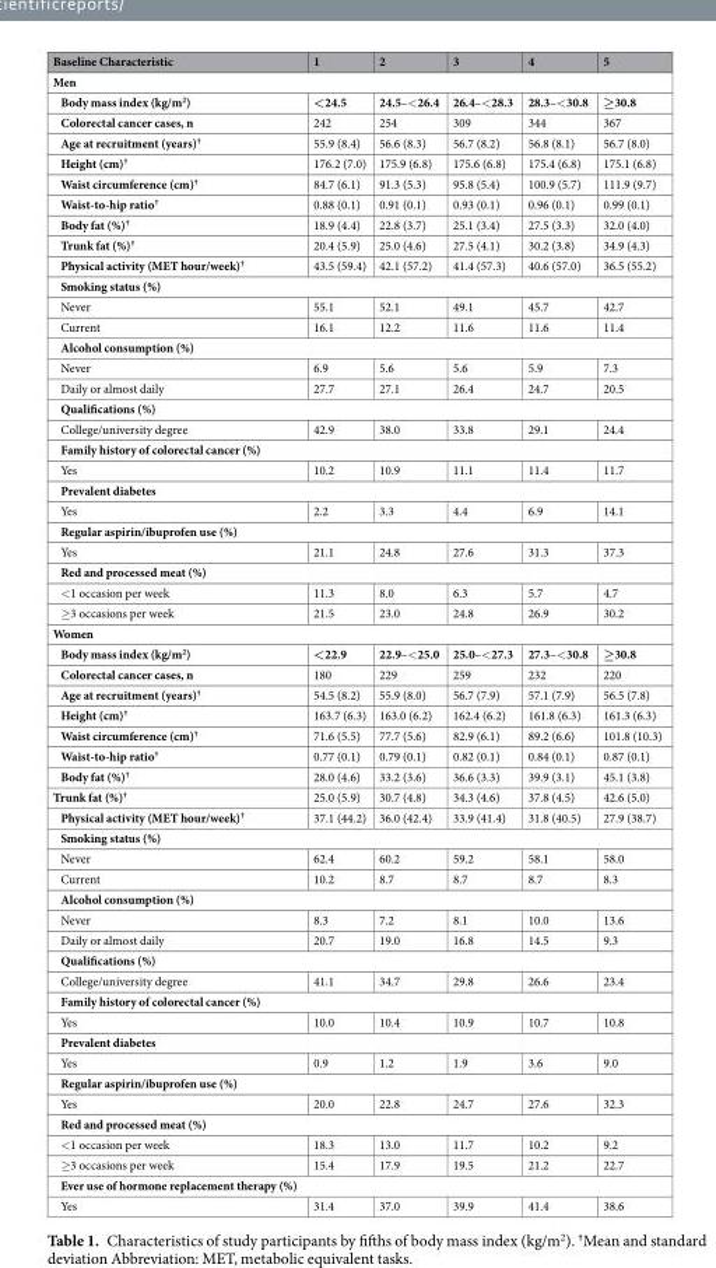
<table><thead><tr><td>Baseline Characteristic</td><td>1</td><td>2</td><td>3</td><td>4</td><td>5</td></tr></thead><tbody><tr><td colspan="6">Men</td></tr><tr><td>Body mass index (kg/m<sup>2</sup>)</td><td>&lt;24.5</td><td>24.5–&lt;26.4</td><td>26.4–&lt;28.3</td><td>28.3–&lt;30.8</td><td>≥30.8</td></tr><tr><td>Colorectal cancer cases, n</td><td>242</td><td>254</td><td>309</td><td>344</td><td>367</td></tr><tr><td>Age at recruitment (years)<sup>†</sup></td><td>55.9 (8.4)</td><td>56.6 (8.3)</td><td>56.7 (8.2)</td><td>56.8 (8.1)</td><td>56.7 (8.0)</td></tr><tr><td>Height (cm)<sup>†</sup></td><td>176.2 (7.0)</td><td>175.9 (6.8)</td><td>175.6 (6.8)</td><td>175.4 (6.8)</td><td>175.1 (6.8)</td></tr><tr><td>Waist circumference (cm)<sup>†</sup></td><td>84.7 (6.1)</td><td>91.3 (5.3)</td><td>95.8 (5.4)</td><td>100.9 (5.7)</td><td>111.9 (9.7)</td></tr><tr><td>Waist-to-hip ratio<sup>†</sup></td><td>0.88 (0.1)</td><td>0.91 (0.1)</td><td>0.93 (0.1)</td><td>0.96 (0.1)</td><td>0.99 (0.1)</td></tr><tr><td>Body fat (%)<sup>†</sup></td><td>18.9 (4.4)</td><td>22.8 (3.7)</td><td>25.1 (3.4)</td><td>27.5 (3.3)</td><td>32.0 (4.0)</td></tr><tr><td>Trunk fat (%)<sup>†</sup></td><td>20.4 (5.9)</td><td>25.0 (4.6)</td><td>27.5 (4.1)</td><td>30.2 (3.8)</td><td>34.9 (4.3)</td></tr><tr><td>Physical activity (MET hour/week)<sup>†</sup></td><td>43.5 (59.4)</td><td>42.1 (57.2)</td><td>41.4 (57.3)</td><td>40.6 (57.0)</td><td>36.5 (55.2)</td></tr><tr><td colspan="6">Smoking status (%)</td></tr><tr><td>Never</td><td>55.1</td><td>52.1</td><td>49.1</td><td>45.7</td><td>42.7</td></tr><tr><td>Current</td><td>16.1</td><td>12.2</td><td>11.6</td><td>11.6</td><td>11.4</td></tr><tr><td colspan="6">Alcohol consumption (%)</td></tr><tr><td>Never</td><td>6.9</td><td>5.6</td><td>5.6</td><td>5.9</td><td>7.3</td></tr><tr><td>Daily or almost daily</td><td>27.7</td><td>27.1</td><td>26.4</td><td>24.7</td><td>20.5</td></tr><tr><td colspan="6">Qualifications (%)</td></tr><tr><td>College/university degree</td><td>42.9</td><td>38.0</td><td>33.8</td><td>29.1</td><td>24.4</td></tr><tr><td colspan="6">Family history of colorectal cancer (%)</td></tr><tr><td>Yes</td><td>10.2</td><td>10.9</td><td>11.1</td><td>11.4</td><td>11.7</td></tr><tr><td colspan="6">Prevalent diabetes</td></tr><tr><td>Yes</td><td>2.2</td><td>3.3</td><td>4.4</td><td>6.9</td><td>14.1</td></tr><tr><td colspan="6">Regular aspirin/ibuprofen use (%)</td></tr><tr><td>Yes</td><td>21.1</td><td>24.8</td><td>27.6</td><td>31.3</td><td>37.3</td></tr><tr><td colspan="6">Red and processed meat (%)</td></tr><tr><td>&lt;1 occasion per week</td><td>11.3</td><td>8.0</td><td>6.3</td><td>5.7</td><td>4.7</td></tr><tr><td>≥3 occasions per week</td><td>21.5</td><td>23.0</td><td>24.8</td><td>26.9</td><td>30.2</td></tr><tr><td colspan="6">Women</td></tr><tr><td>Body mass index (kg/m<sup>2</sup>)</td><td>&lt;22.9</td><td>22.9–&lt;25.0</td><td>25.0–&lt;27.3</td><td>27.3–&lt;30.8</td><td>≥30.8</td></tr><tr><td>Colorectal cancer cases, n</td><td>180</td><td>229</td><td>259</td><td>232</td><td>220</td></tr><tr><td>Age at recruitment (years)<sup>†</sup></td><td>54.5 (8.2)</td><td>55.9 (8.0)</td><td>56.7 (7.9)</td><td>57.1 (7.9)</td><td>56.5 (7.8)</td></tr><tr><td>Height (cm)<sup>†</sup></td><td>163.7 (6.3)</td><td>163.0 (6.2)</td><td>162.4 (6.2)</td><td>161.8 (6.3)</td><td>161.3 (6.3)</td></tr><tr><td>Waist circumference (cm)<sup>†</sup></td><td>71.6 (5.5)</td><td>77.7 (5.6)</td><td>82.9 (6.1)</td><td>89.2 (6.6)</td><td>101.8 (10.3)</td></tr><tr><td>Waist-to-hip ratio<sup>†</sup></td><td>0.77 (0.1)</td><td>0.79 (0.1)</td><td>0.82 (0.1)</td><td>0.84 (0.1)</td><td>0.87 (0.1)</td></tr><tr><td>Body fat (%)<sup>†</sup></td><td>28.0 (4.6)</td><td>33.2 (3.6)</td><td>36.6 (3.3)</td><td>39.9 (3.1)</td><td>45.1 (3.8)</td></tr><tr><td>Trunk fat (%)<sup>†</sup></td><td>25.0 (5.9)</td><td>30.7 (4.8)</td><td>34.3 (4.6)</td><td>37.8 (4.5)</td><td>42.6 (5.0)</td></tr><tr><td>Physical activity (MET hour/week)<sup>†</sup></td><td>37.1 (44.2)</td><td>36.0 (42.4)</td><td>33.9 (41.4)</td><td>31.8 (40.5)</td><td>27.9 (38.7)</td></tr><tr><td colspan="6">Smoking status (%)</td></tr><tr><td>Never</td><td>62.4</td><td>60.2</td><td>59.2</td><td>58.1</td><td>58.0</td></tr><tr><td>Current</td><td>10.2</td><td>8.7</td><td>8.7</td><td>8.7</td><td>8.3</td></tr><tr><td colspan="6">Alcohol consumption (%)</td></tr><tr><td>Never</td><td>8.3</td><td>7.2</td><td>8.1</td><td>10.0</td><td>13.6</td></tr><tr><td>Daily or almost daily</td><td>20.7</td><td>19.0</td><td>16.8</td><td>14.5</td><td>9.3</td></tr><tr><td colspan="6">Qualifications (%)</td></tr><tr><td>College/university degree</td><td>41.1</td><td>34.7</td><td>29.8</td><td>26.6</td><td>23.4</td></tr><tr><td colspan="6">Family history of colorectal cancer (%)</td></tr><tr><td>Yes</td><td>10.0</td><td>10.4</td><td>10.9</td><td>10.7</td><td>10.8</td></tr><tr><td colspan="6">Prevalent diabetes</td></tr><tr><td>Yes</td><td>0.9</td><td>1.2</td><td>1.9</td><td>3.6</td><td>9.0</td></tr><tr><td colspan="6">Regular aspirin/ibuprofen use (%)</td></tr><tr><td>Yes</td><td>20.0</td><td>22.8</td><td>24.7</td><td>27.6</td><td>32.3</td></tr><tr><td colspan="6">Red and processed meat (%)</td></tr><tr><td>&lt;1 occasion per week</td><td>18.3</td><td>13.0</td><td>11.7</td><td>10.2</td><td>9.2</td></tr><tr><td>≥3 occasions per week</td><td>15.4</td><td>17.9</td><td>19.5</td><td>21.2</td><td>22.7</td></tr><tr><td colspan="6">Ever use of hormone replacement therapy (%)</td></tr><tr><td>Yes</td><td>31.4</td><td>37.0</td><td>39.9</td><td>41.4</td><td>38.6</td></tr></tbody></table>